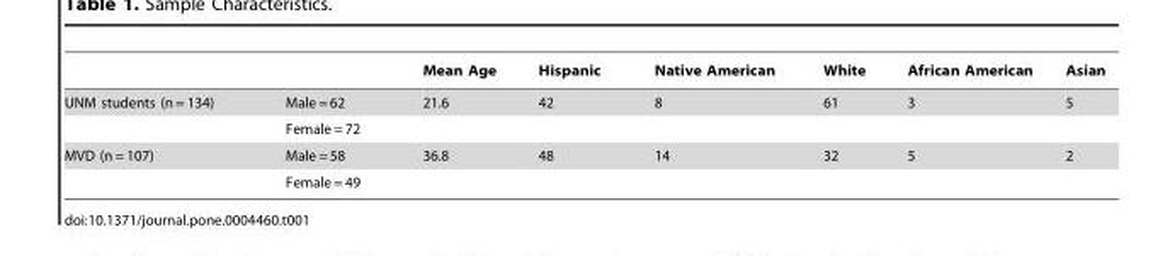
<table><thead><tr><td></td><td></td><td>Mean Age</td><td>Hispanic</td><td>Native American</td><td>White</td><td>African American</td><td>Asian</td></tr></thead><tbody><tr><td rowspan="2">UNM students (n = 134)</td><td>Male = 62</td><td>21.6</td><td>42</td><td>8</td><td>61</td><td>3</td><td>5</td></tr><tr><td>Female = 72</td><td></td><td></td><td></td><td></td><td></td><td></td></tr><tr><td rowspan="2">MVD (n = 107)</td><td>Male = 58</td><td>36.8</td><td>48</td><td>14</td><td>32</td><td>5</td><td>2</td></tr><tr><td>Female = 49</td><td></td><td></td><td></td><td></td><td></td><td></td></tr></tbody></table>